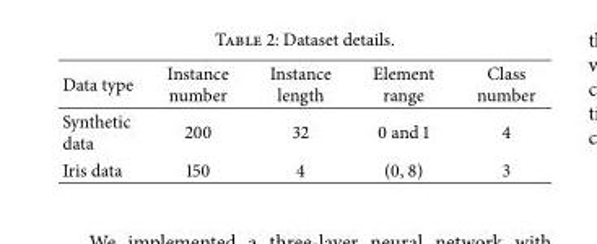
<table><thead><tr><td>Data type</td><td>Instance number</td><td>Instance length</td><td>Element range</td><td>Class number</td></tr></thead><tbody><tr><td>Synthetic data</td><td>200</td><td>32</td><td>0 and 1</td><td>4</td></tr><tr><td>Iris data</td><td>150</td><td>4</td><td>(0, 8)</td><td>3</td></tr></tbody></table>